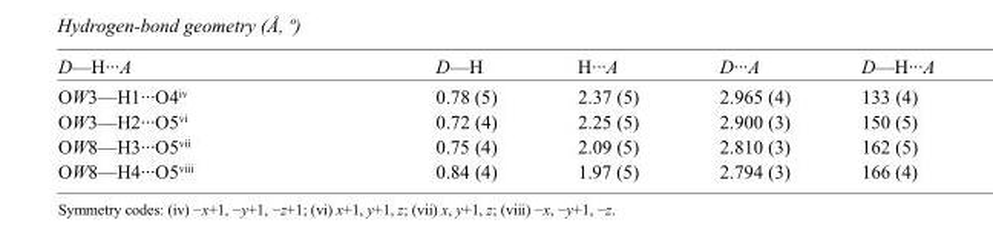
<table><tbody><tr><td>D—H···A</td><td>D—H</td><td>H···A</td><td>D···A</td><td>D—H···A</td></tr><tr><td>OW3—H1···O4<sup>iv</sup></td><td>0.78 (5)</td><td>2.37 (5)</td><td>2.965 (4)</td><td>133 (4)</td></tr><tr><td>OW3—H2···O5<sup>vi</sup></td><td>0.72 (4)</td><td>2.25 (5)</td><td>2.900 (3)</td><td>150 (5)</td></tr><tr><td>OW8—H3···O5<sup>vii</sup></td><td>0.75 (4)</td><td>2.09 (5)</td><td>2.810 (3)</td><td>162 (5)</td></tr><tr><td>OW8—H4···O5<sup>viii</sup></td><td>0.84 (4)</td><td>1.97 (5)</td><td>2.794 (3)</td><td>166 (4)</td></tr></tbody></table>